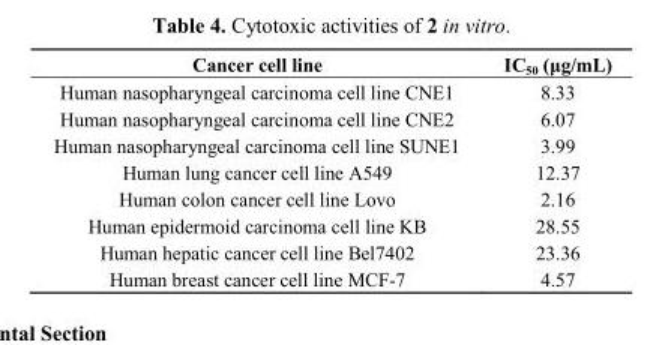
<table><thead><tr><td>Cancer cell line</td><td>IC<sub>50</sub> (μg/mL)</td></tr></thead><tbody><tr><td>Human nasopharyngeal carcinoma cell line CNE1</td><td>8.33</td></tr><tr><td>Human nasopharyngeal carcinoma cell line CNE2</td><td>6.07</td></tr><tr><td>Human nasopharyngeal carcinoma cell line SUNE1</td><td>3.99</td></tr><tr><td>Human lung cancer cell line A549</td><td>12.37</td></tr><tr><td>Human colon cancer cell line Lovo</td><td>2.16</td></tr><tr><td>Human epidermoid carcinoma cell line KB</td><td>28.55</td></tr><tr><td>Human hepatic cancer cell line Bel7402</td><td>23.36</td></tr><tr><td>Human breast cancer cell line MCF-7</td><td>4.57</td></tr></tbody></table>